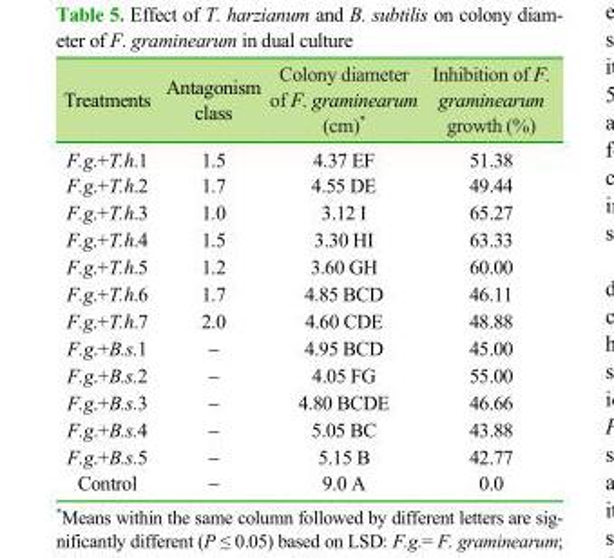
<table><thead><tr><td>Treatments</td><td>Antagonism class</td><td>Colony diameter of F. graminearum (cm)*</td><td>Inhibition of F. graminearum growth (%)</td></tr></thead><tbody><tr><td>F.g.+T.h.1</td><td>1.5</td><td>4.37 EF</td><td>51.38</td></tr><tr><td>F.g.+T.h.2</td><td>1.7</td><td>4.55 DE</td><td>49.44</td></tr><tr><td>F.g.+T.h.3</td><td>1.0</td><td>3.12 I</td><td>65.27</td></tr><tr><td>F.g.+T.h.4</td><td>1.5</td><td>3.30 HI</td><td>63.33</td></tr><tr><td>F.g.+T.h.5</td><td>1.2</td><td>3.60 GH</td><td>60.00</td></tr><tr><td>F.g.+T.h.6</td><td>1.7</td><td>4.85 BCD</td><td>46.11</td></tr><tr><td>F.g.+T.h.7</td><td>2.0</td><td>4.60 CDE</td><td>48.88</td></tr><tr><td>F.g.+B.s.1</td><td>-</td><td>4.95 BCD</td><td>45.00</td></tr><tr><td>F.g.+B.s.2</td><td>-</td><td>4.05 FG</td><td>55.00</td></tr><tr><td>F.g.+B.s.3</td><td>-</td><td>4.80 BCDE</td><td>46.66</td></tr><tr><td>F.g.+B.s.4</td><td>-</td><td>5.05 BC</td><td>43.88</td></tr><tr><td>F.g.+B.s.5</td><td>-</td><td>5.15 B</td><td>42.77</td></tr><tr><td>Control</td><td>-</td><td>9.0 A</td><td>0.0</td></tr></tbody></table>